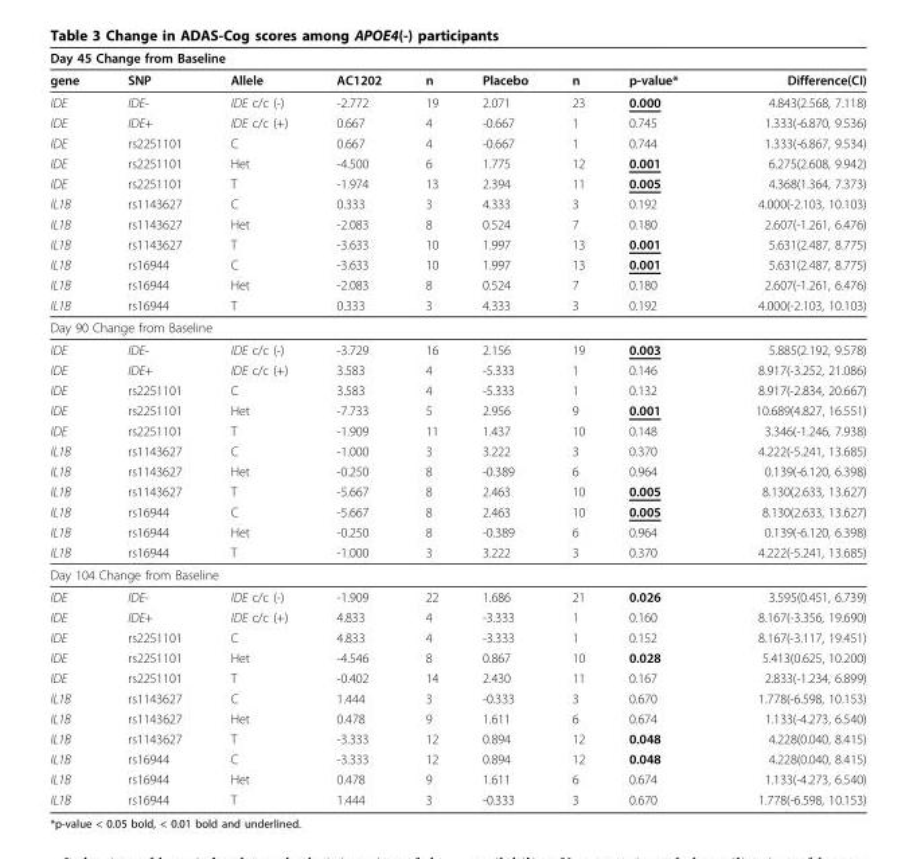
<table><thead><tr><td colspan="3">Day 45 Change from Baseline</td><td rowspan="2">AC1202</td><td rowspan="2">n</td><td rowspan="2">Placebo</td><td rowspan="2">n</td><td rowspan="2">p-value*</td><td rowspan="2">Difference(CI)</td></tr><tr><td>gene</td><td>SNP</td><td>Allele</td></tr></thead><tbody><tr><td>IDE</td><td>IDE-</td><td>IDE c/c (-)</td><td>-2.772</td><td>19</td><td>2.071</td><td>23</td><td>0.000</td><td>4.843(2.568, 7.118)</td></tr><tr><td>IDE</td><td>IDE+</td><td>IDE c/c (+)</td><td>0.667</td><td>4</td><td>-0.667</td><td>1</td><td>0.745</td><td>1.333(-6.870, 9.536)</td></tr><tr><td>IDE</td><td>rs2251101</td><td>C</td><td>0.667</td><td>4</td><td>-0.667</td><td>1</td><td>0.744</td><td>1.333(-6.867, 9.534)</td></tr><tr><td>IDE</td><td>rs2251101</td><td>Het</td><td>-4.500</td><td>6</td><td>1.775</td><td>12</td><td>0.001</td><td>6.275(2.608, 9.942)</td></tr><tr><td>IDE</td><td>rs2251101</td><td>T</td><td>-1.974</td><td>13</td><td>2.394</td><td>11</td><td>0.005</td><td>4.368(1.364, 7.373)</td></tr><tr><td>IL1B</td><td>rs1143627</td><td>C</td><td>0.333</td><td>3</td><td>4.333</td><td>3</td><td>0.192</td><td>4.000(-2.103, 10.103)</td></tr><tr><td>IL1B</td><td>rs1143627</td><td>Het</td><td>-2.083</td><td>8</td><td>0.524</td><td>7</td><td>0.180</td><td>2.607(-1.261, 6.476)</td></tr><tr><td>IL1B</td><td>rs1143627</td><td>T</td><td>-3.633</td><td>10</td><td>1.997</td><td>13</td><td>0.001</td><td>5.631(2.487, 8.775)</td></tr><tr><td>IL1B</td><td>rs16944</td><td>C</td><td>-3.633</td><td>10</td><td>1.997</td><td>13</td><td>0.001</td><td>5.631(2.487, 8.775)</td></tr><tr><td>IL1B</td><td>rs16944</td><td>Het</td><td>-2.083</td><td>8</td><td>0.524</td><td>7</td><td>0.180</td><td>2.607(-1.261, 6.476)</td></tr><tr><td>IL1B</td><td>rs16944</td><td>T</td><td>0.333</td><td>3</td><td>4.333</td><td>3</td><td>0.192</td><td>4.000(-2.103, 10.103)</td></tr><tr><td colspan="9">Day 90 Change from Baseline</td></tr><tr><td>IDE</td><td>IDE-</td><td>IDE c/c (-)</td><td>-3.729</td><td>16</td><td>2.156</td><td>19</td><td>0.003</td><td>5.885(2.192, 9.578)</td></tr><tr><td>IDE</td><td>IDE+</td><td>IDE c/c (+)</td><td>3.583</td><td>4</td><td>-5.333</td><td>1</td><td>0.146</td><td>8.917(-3.252, 21.086)</td></tr><tr><td>IDE</td><td>rs2251101</td><td>C</td><td>3.583</td><td>4</td><td>-5.333</td><td>1</td><td>0.132</td><td>8.917(-2.834, 20.667)</td></tr><tr><td>IDE</td><td>rs2251101</td><td>Het</td><td>-7.733</td><td>5</td><td>2.956</td><td>9</td><td>0.001</td><td>10.689(4.827, 16.551)</td></tr><tr><td>IDE</td><td>rs2251101</td><td>T</td><td>-1.909</td><td>11</td><td>1.437</td><td>10</td><td>0.148</td><td>3.346(-1.246, 7.938)</td></tr><tr><td>IL1B</td><td>rs1143627</td><td>C</td><td>-1.000</td><td>3</td><td>3.222</td><td>3</td><td>0.370</td><td>4.222(-5.241, 13.685)</td></tr><tr><td>IL1B</td><td>rs1143627</td><td>Het</td><td>-0.250</td><td>8</td><td>-0.389</td><td>6</td><td>0.964</td><td>0.139(-6.120, 6.398)</td></tr><tr><td>IL1B</td><td>rs1143627</td><td>T</td><td>-5.667</td><td>8</td><td>2.463</td><td>10</td><td>0.005</td><td>8.130(2.633, 13.627)</td></tr><tr><td>IL1B</td><td>rs16944</td><td>C</td><td>-5.667</td><td>8</td><td>2.463</td><td>10</td><td>0.005</td><td>8.130(2.633, 13.627)</td></tr><tr><td>IL1B</td><td>rs16944</td><td>Het</td><td>-0.250</td><td>8</td><td>-0.389</td><td>6</td><td>0.964</td><td>0.139(-6.120, 6.398)</td></tr><tr><td>IL1B</td><td>rs16944</td><td>T</td><td>-1.000</td><td>3</td><td>3.222</td><td>3</td><td>0.370</td><td>4.222(-5.241, 13.685)</td></tr><tr><td colspan="9">Day 104 Change from Baseline</td></tr><tr><td>IDE</td><td>IDE-</td><td>IDE c/c (-)</td><td>-1.909</td><td>22</td><td>1.686</td><td>21</td><td>0.026</td><td>3.595(0.451, 6.739)</td></tr><tr><td>IDE</td><td>IDE+</td><td>IDE c/c (+)</td><td>4.833</td><td>4</td><td>-3.333</td><td>1</td><td>0.160</td><td>8.167(-3.356, 19.690)</td></tr><tr><td>IDE</td><td>rs2251101</td><td>C</td><td>4.833</td><td>4</td><td>-3.333</td><td>1</td><td>0.152</td><td>8.167(-3.117, 19.451)</td></tr><tr><td>IDE</td><td>rs2251101</td><td>Het</td><td>-4.546</td><td>8</td><td>0.867</td><td>10</td><td>0.028</td><td>5.413(0.625, 10.200)</td></tr><tr><td>IDE</td><td>rs2251101</td><td>T</td><td>-0.402</td><td>14</td><td>2.430</td><td>11</td><td>0.167</td><td>2.833(-1.234, 6.899)</td></tr><tr><td>IL1B</td><td>rs1143627</td><td>C</td><td>1.444</td><td>3</td><td>-0.333</td><td>3</td><td>0.670</td><td>1.778(-6.598, 10.153)</td></tr><tr><td>IL1B</td><td>rs1143627</td><td>Het</td><td>0.478</td><td>9</td><td>1.611</td><td>6</td><td>0.674</td><td>1.133(-4.273, 6.540)</td></tr><tr><td>IL1B</td><td>rs1143627</td><td>T</td><td>-3.333</td><td>12</td><td>0.894</td><td>12</td><td>0.048</td><td>4.228(0.040, 8.415)</td></tr><tr><td>IL1B</td><td>rs16944</td><td>C</td><td>-3.333</td><td>12</td><td>0.894</td><td>12</td><td>0.048</td><td>4.228(0.040, 8.415)</td></tr><tr><td>IL1B</td><td>rs16944</td><td>Het</td><td>0.478</td><td>9</td><td>1.611</td><td>6</td><td>0.674</td><td>1.133(-4.273, 6.540)</td></tr><tr><td>IL1B</td><td>rs16944</td><td>T</td><td>1.444</td><td>3</td><td>-0.333</td><td>3</td><td>0.670</td><td>1.778(-6.598, 10.153)</td></tr></tbody></table>